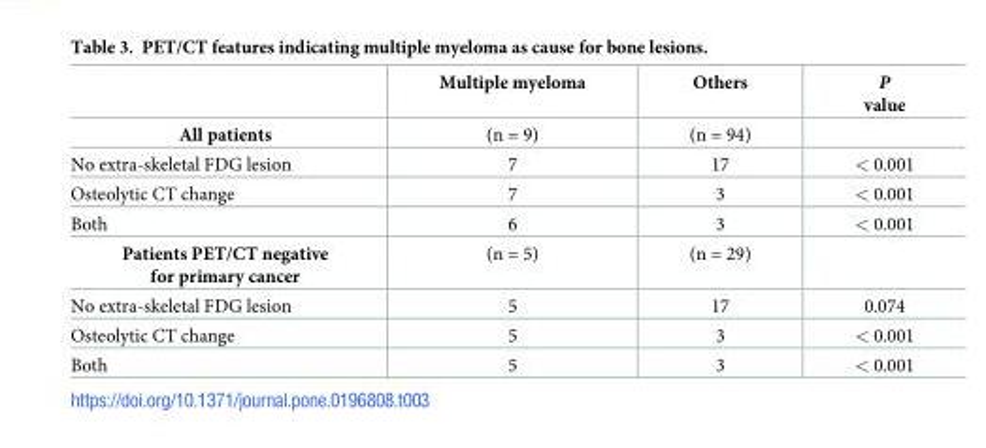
<table><thead><tr><td></td><td>Multiple myeloma</td><td>Others</td><td>P value</td></tr></thead><tbody><tr><td>All patients</td><td>(n = 9)</td><td>(n = 94)</td><td></td></tr><tr><td>No extra-skeletal FDG lesion</td><td>7</td><td>17</td><td>&lt; 0.001</td></tr><tr><td>Osteolytic CT change</td><td>7</td><td>3</td><td>&lt; 0.001</td></tr><tr><td>Both</td><td>6</td><td>3</td><td>&lt; 0.001</td></tr><tr><td>Patients PET/CT negative for primary cancer</td><td>(n = 5)</td><td>(n = 29)</td><td></td></tr><tr><td>No extra-skeletal FDG lesion</td><td>5</td><td>17</td><td>0.074</td></tr><tr><td>Osteolytic CT change</td><td>5</td><td>3</td><td>&lt; 0.001</td></tr><tr><td>Both</td><td>5</td><td>3</td><td>&lt; 0.001</td></tr></tbody></table>